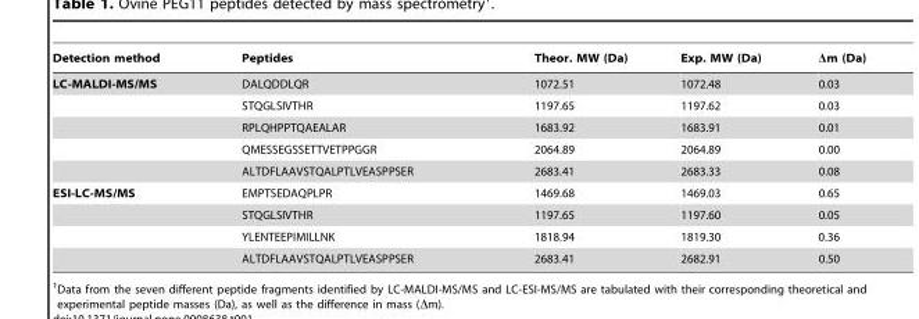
<table><thead><tr><td>Detection method</td><td>Peptides</td><td>Theor. MW (Da)</td><td>Exp. MW (Da)</td><td>Δm (Da)</td></tr></thead><tbody><tr><td rowspan="5">LC-MALDI-MS/MS</td><td>DALQDDLQR</td><td>1072.51</td><td>1072.48</td><td>0.03</td></tr><tr><td>STQGLSIVTHR</td><td>1197.65</td><td>1197.62</td><td>0.03</td></tr><tr><td>RPLQHPPTQAEALAR</td><td>1683.92</td><td>1683.91</td><td>0.01</td></tr><tr><td>QMESSEGSSETTVETPPGGR</td><td>2064.89</td><td>2064.89</td><td>0.00</td></tr><tr><td>ALTDFLAAVSTQALPTLVEASPPSER</td><td>2683.41</td><td>2683.33</td><td>0.08</td></tr><tr><td rowspan="4">ESI-LC-MS/MS</td><td>EMPTSEDAQPLPR</td><td>1469.68</td><td>1469.03</td><td>0.65</td></tr><tr><td>STQGLSIVTHR</td><td>1197.65</td><td>1197.60</td><td>0.05</td></tr><tr><td>YLENTEEPIMILLNK</td><td>1818.94</td><td>1819.30</td><td>0.36</td></tr><tr><td>ALTDFLAAVSTQALPTLVEASPPSER</td><td>2683.41</td><td>2682.91</td><td>0.50</td></tr></tbody></table>